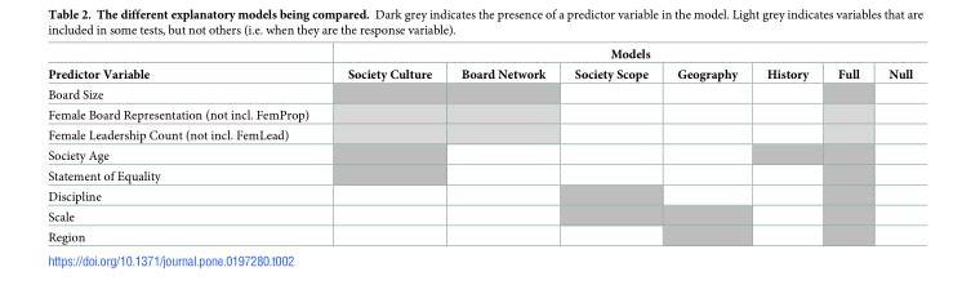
<table><thead><tr><td rowspan="2">Predictor Variable</td><td colspan="7">Models</td></tr><tr><td>Society Culture</td><td>Board Network</td><td>Society Scope</td><td>Geography</td><td>History</td><td>Full</td><td>Null</td></tr></thead><tbody><tr><td colspan="8">Board Size</td></tr><tr><td colspan="8">Female Board Representation (not incl. FemProp)</td></tr><tr><td colspan="8">Female Leadership Count (not incl. FemLead)</td></tr><tr><td colspan="8">Society Age</td></tr><tr><td colspan="8">Statement of Equality</td></tr><tr><td colspan="8">Discipline</td></tr><tr><td colspan="8">Scale</td></tr><tr><td>Region</td><td></td><td></td><td></td><td></td><td></td><td></td><td></td></tr></tbody></table>